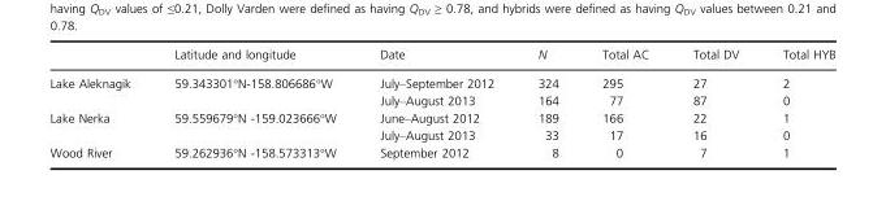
<table><thead><tr><td></td><td>Latitude and longitude</td><td>Date</td><td>N</td><td>Total AC</td><td>Total DV</td><td>Total HYB</td></tr></thead><tbody><tr><td rowspan="2">Lake Aleknagik</td><td rowspan="2">59.343301°N-158.806686°W</td><td>July–September 2012</td><td>324</td><td>295</td><td>27</td><td>2</td></tr><tr><td>July–August 2013</td><td>164</td><td>77</td><td>87</td><td>0</td></tr><tr><td rowspan="2">Lake Nerka</td><td rowspan="2">59.559679°N -159.023666°W</td><td>June–August 2012</td><td>189</td><td>166</td><td>22</td><td>1</td></tr><tr><td>July–August 2013</td><td>33</td><td>17</td><td>16</td><td>0</td></tr><tr><td>Wood River</td><td>59.262936°N -158.573313°W</td><td>September 2012</td><td>8</td><td>0</td><td>7</td><td>1</td></tr></tbody></table>